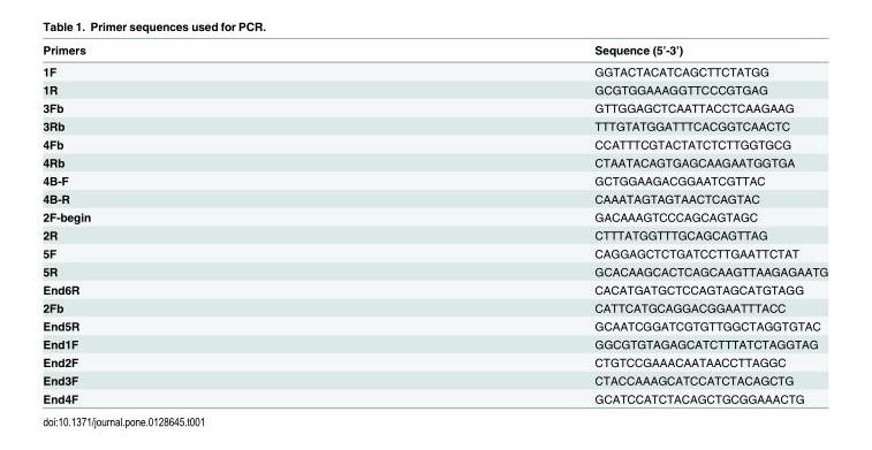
<table><thead><tr><td>Primers</td><td>Sequence (5’-3’)</td></tr></thead><tbody><tr><td>1F</td><td>GGTACTACATCAGCTTCTATGG</td></tr><tr><td>1R</td><td>GCGTGGAAAGGTTCCCGTGAG</td></tr><tr><td>3Fb</td><td>GTTGGAGCTCAATTACCTCAAGAAG</td></tr><tr><td>3Rb</td><td>TTTGTATGGATTTCACGGTCAACTC</td></tr><tr><td>4Fb</td><td>CCATTTCGTACTATCTCTTGGTGCG</td></tr><tr><td>4Rb</td><td>CTAATACAGTGAGCAAGAATGGTGA</td></tr><tr><td>4B-F</td><td>GCTGGAAGACGGAATCGTTAC</td></tr><tr><td>4B-R</td><td>CAAATAGTAGTAACTCAGTAC</td></tr><tr><td>2F-begin</td><td>GACAAAGTCCCAGCAGTAGC</td></tr><tr><td>2R</td><td>CTTTATGGTTTGCAGCAGTTAG</td></tr><tr><td>5F</td><td>CAGGAGCTCTGATCCTTGAATTCTAT</td></tr><tr><td>5R</td><td>GCACAAGCACTCAGCAAGTTAAGAGAATG</td></tr><tr><td>End6R</td><td>CACATGATGCTCCAGTAGCATGTAGG</td></tr><tr><td>2Fb</td><td>CATTCATGCAGGACGGAATTTACC</td></tr><tr><td>End5R</td><td>GCAATCGGATCGTGTTGGCTAGGTGTAC</td></tr><tr><td>End1F</td><td>GGCGTGTAGAGCATCTTTATCTAGGTAG</td></tr><tr><td>End2F</td><td>CTGTCCGAAACAATAACCTTAGGC</td></tr><tr><td>End3F</td><td>CTACCAAAGCATCCATCTACAGCTG</td></tr><tr><td>End4F</td><td>GCATCCATCTACAGCTGCGGAAACTG</td></tr></tbody></table>